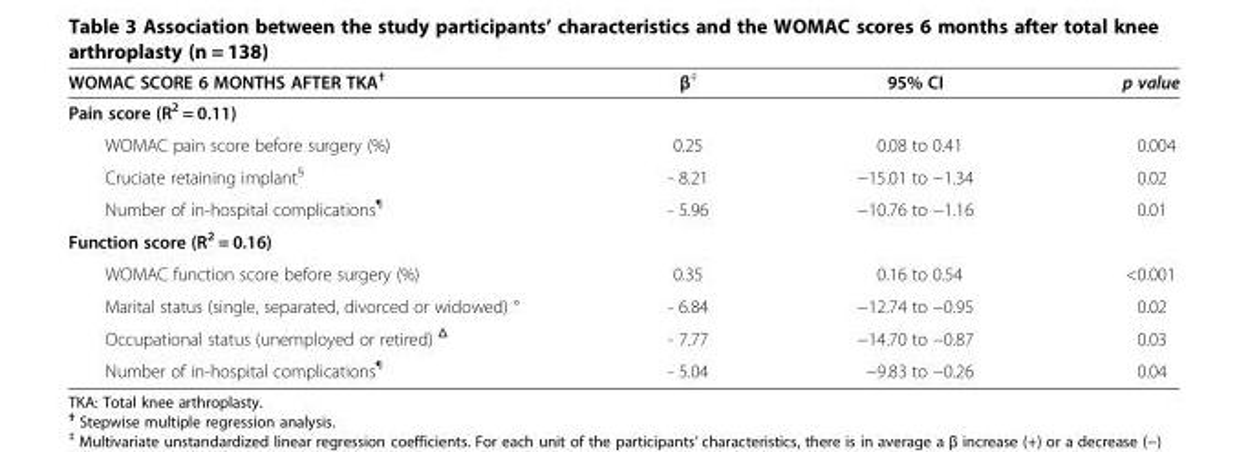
<table><thead><tr><td>WOMAC SCORE 6 MONTHS AFTER TKA<sup>†</sup></td><td>β<sup>‡</sup></td><td>95% CI</td><td>p value</td></tr></thead><tbody><tr><td colspan="4">Pain score (R<sup>2</sup> = 0.11)</td></tr><tr><td>WOMAC pain score before surgery (%)</td><td>0.25</td><td>0.08 to 0.41</td><td>0.004</td></tr><tr><td>Cruciate retaining implant<sup>§</sup></td><td>- 8.21</td><td>−15.01 to −1.34</td><td>0.02</td></tr><tr><td>Number of in-hospital complications<sup>¶</sup></td><td>- 5.96</td><td>−10.76 to −1.16</td><td>0.01</td></tr><tr><td colspan="4">Function score (R<sup>2</sup> = 0.16)</td></tr><tr><td>WOMAC function score before surgery (%)</td><td>0.35</td><td>0.16 to 0.54</td><td>&lt;0.001</td></tr><tr><td>Marital status (single, separated, divorced or widowed) °</td><td>- 6.84</td><td>−12.74 to −0.95</td><td>0.02</td></tr><tr><td>Occupational status (unemployed or retired) <sup>Δ</sup></td><td>- 7.77</td><td>−14.70 to −0.87</td><td>0.03</td></tr><tr><td>Number of in-hospital complications<sup>¶</sup></td><td>- 5.04</td><td>−9.83 to −0.26</td><td>0.04</td></tr></tbody></table>